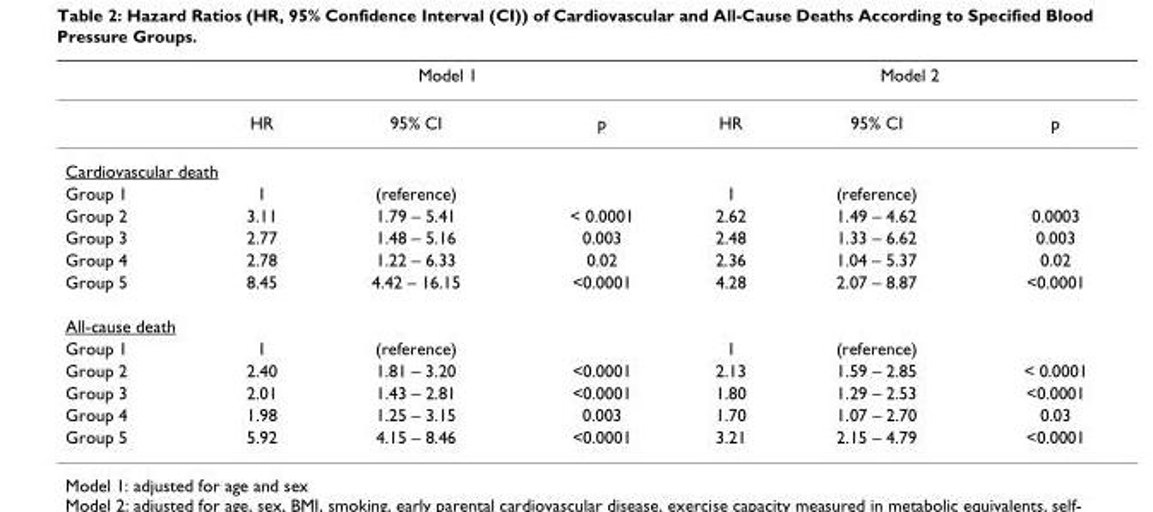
<table><thead><tr><td rowspan="2"></td><td colspan="3">Model 1</td><td colspan="3">Model 2</td></tr><tr><td>HR</td><td>95% CI</td><td>p</td><td>HR</td><td>95% CI</td><td>p</td></tr></thead><tbody><tr><td colspan="7">Cardiovascular death</td></tr><tr><td>Group 1</td><td>1</td><td>(reference)</td><td></td><td>1</td><td>(reference)</td><td></td></tr><tr><td>Group 2</td><td>3.11</td><td>1.79 – 5.41</td><td>&lt; 0.0001</td><td>2.62</td><td>1.49 – 4.62</td><td>0.0003</td></tr><tr><td>Group 3</td><td>2.77</td><td>1.48 – 5.16</td><td>0.003</td><td>2.48</td><td>1.33 – 6.62</td><td>0.003</td></tr><tr><td>Group 4</td><td>2.78</td><td>1.22 – 6.33</td><td>0.02</td><td>2.36</td><td>1.04 – 5.37</td><td>0.02</td></tr><tr><td>Group 5</td><td>8.45</td><td>4.42 – 16.15</td><td>&lt;0.0001</td><td>4.28</td><td>2.07 – 8.87</td><td>&lt;0.0001</td></tr><tr><td colspan="7">All-cause death</td></tr><tr><td>Group 1</td><td>1</td><td>(reference)</td><td></td><td>1</td><td>(reference)</td><td></td></tr><tr><td>Group 2</td><td>2.40</td><td>1.81 – 3.20</td><td>&lt;0.0001</td><td>2.13</td><td>1.59 – 2.85</td><td>&lt; 0.0001</td></tr><tr><td>Group 3</td><td>2.01</td><td>1.43 – 2.81</td><td>&lt;0.0001</td><td>1.80</td><td>1.29 – 2.53</td><td>&lt;0.0001</td></tr><tr><td>Group 4</td><td>1.98</td><td>1.25 – 3.15</td><td>0.003</td><td>1.70</td><td>1.07 – 2.70</td><td>0.03</td></tr><tr><td>Group 5</td><td>5.92</td><td>4.15 – 8.46</td><td>&lt;0.0001</td><td>3.21</td><td>2.15 – 4.79</td><td>&lt;0.0001</td></tr></tbody></table>